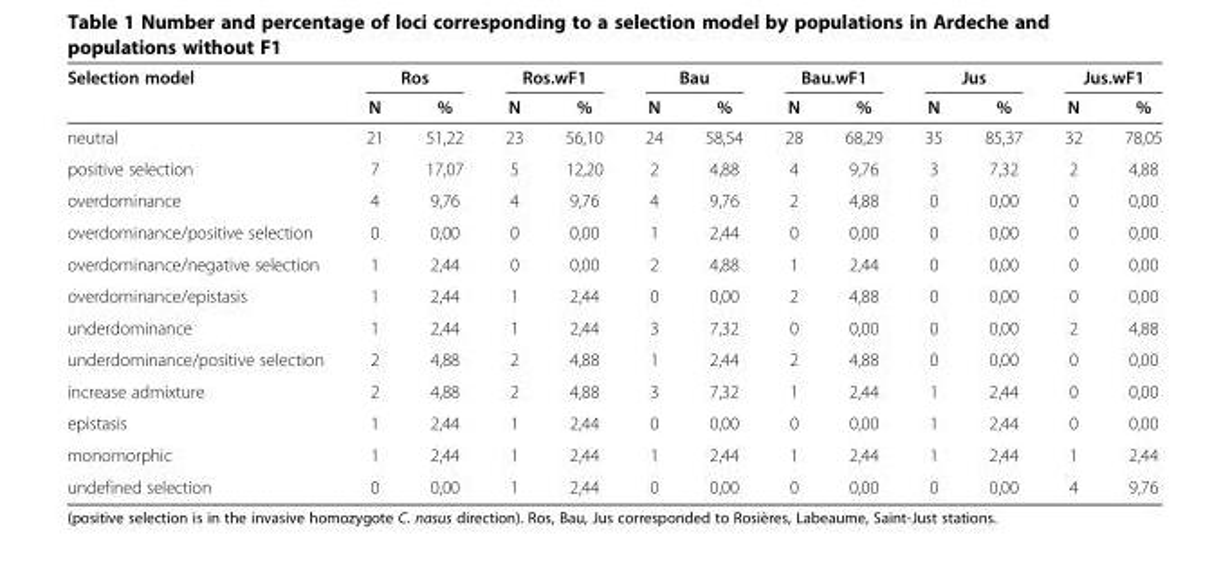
<table><thead><tr><td rowspan="2">Selection model</td><td colspan="2">Ros</td><td colspan="2">Ros.wF1</td><td colspan="2">Bau</td><td colspan="2">Bau.wF1</td><td colspan="2">Jus</td><td colspan="2">Jus.wF1</td></tr><tr><td>N</td><td>%</td><td>N</td><td>%</td><td>N</td><td>%</td><td>N</td><td>%</td><td>N</td><td>%</td><td>N</td><td>%</td></tr></thead><tbody><tr><td>neutral</td><td>21</td><td>51,22</td><td>23</td><td>56,10</td><td>24</td><td>58,54</td><td>28</td><td>68,29</td><td>35</td><td>85,37</td><td>32</td><td>78,05</td></tr><tr><td>positive selection</td><td>7</td><td>17,07</td><td>5</td><td>12,20</td><td>2</td><td>4,88</td><td>4</td><td>9,76</td><td>3</td><td>7,32</td><td>2</td><td>4,88</td></tr><tr><td>overdominance</td><td>4</td><td>9,76</td><td>4</td><td>9,76</td><td>4</td><td>9,76</td><td>2</td><td>4,88</td><td>0</td><td>0,00</td><td>0</td><td>0,00</td></tr><tr><td>overdominance/positive selection</td><td>0</td><td>0,00</td><td>0</td><td>0,00</td><td>1</td><td>2,44</td><td>0</td><td>0,00</td><td>0</td><td>0,00</td><td>0</td><td>0,00</td></tr><tr><td>overdominance/negative selection</td><td>1</td><td>2,44</td><td>0</td><td>0,00</td><td>2</td><td>4,88</td><td>1</td><td>2,44</td><td>0</td><td>0,00</td><td>0</td><td>0,00</td></tr><tr><td>overdominance/epistasis</td><td>1</td><td>2,44</td><td>1</td><td>2,44</td><td>0</td><td>0,00</td><td>2</td><td>4,88</td><td>0</td><td>0,00</td><td>0</td><td>0,00</td></tr><tr><td>underdominance</td><td>1</td><td>2,44</td><td>1</td><td>2,44</td><td>3</td><td>7,32</td><td>0</td><td>0,00</td><td>0</td><td>0,00</td><td>2</td><td>4,88</td></tr><tr><td>underdominance/positive selection</td><td>2</td><td>4,88</td><td>2</td><td>4,88</td><td>1</td><td>2,44</td><td>2</td><td>4,88</td><td>0</td><td>0,00</td><td>0</td><td>0,00</td></tr><tr><td>increase admixture</td><td>2</td><td>4,88</td><td>2</td><td>4,88</td><td>3</td><td>7,32</td><td>1</td><td>2,44</td><td>1</td><td>2,44</td><td>0</td><td>0,00</td></tr><tr><td>epistasis</td><td>1</td><td>2,44</td><td>1</td><td>2,44</td><td>0</td><td>0,00</td><td>0</td><td>0,00</td><td>1</td><td>2,44</td><td>0</td><td>0,00</td></tr><tr><td>monomorphic</td><td>1</td><td>2,44</td><td>1</td><td>2,44</td><td>1</td><td>2,44</td><td>1</td><td>2,44</td><td>1</td><td>2,44</td><td>1</td><td>2,44</td></tr><tr><td>undefined selection</td><td>0</td><td>0,00</td><td>1</td><td>2,44</td><td>0</td><td>0,00</td><td>0</td><td>0,00</td><td>0</td><td>0,00</td><td>4</td><td>9,76</td></tr></tbody></table>